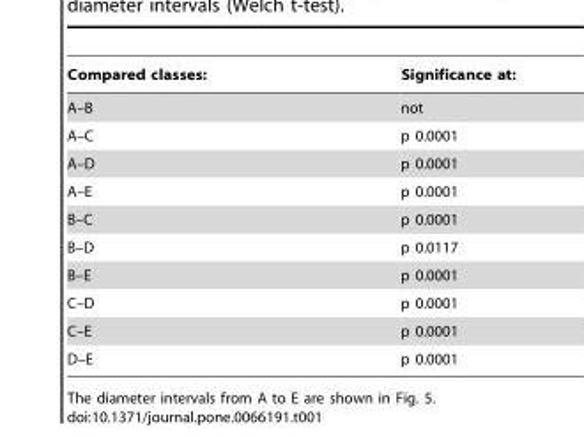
<table><thead><tr><td>Compared classes:</td><td>Significance at:</td></tr></thead><tbody><tr><td>A–B</td><td>not</td></tr><tr><td>A–C</td><td>p 0.0001</td></tr><tr><td>A–D</td><td>p 0.0001</td></tr><tr><td>A–E</td><td>p 0.0001</td></tr><tr><td>B–C</td><td>p 0.0001</td></tr><tr><td>B–D</td><td>p 0.0117</td></tr><tr><td>B–E</td><td>p 0.0001</td></tr><tr><td>C–D</td><td>p 0.0001</td></tr><tr><td>C–E</td><td>p 0.0001</td></tr><tr><td>D–E</td><td>p 0.0001</td></tr></tbody></table>